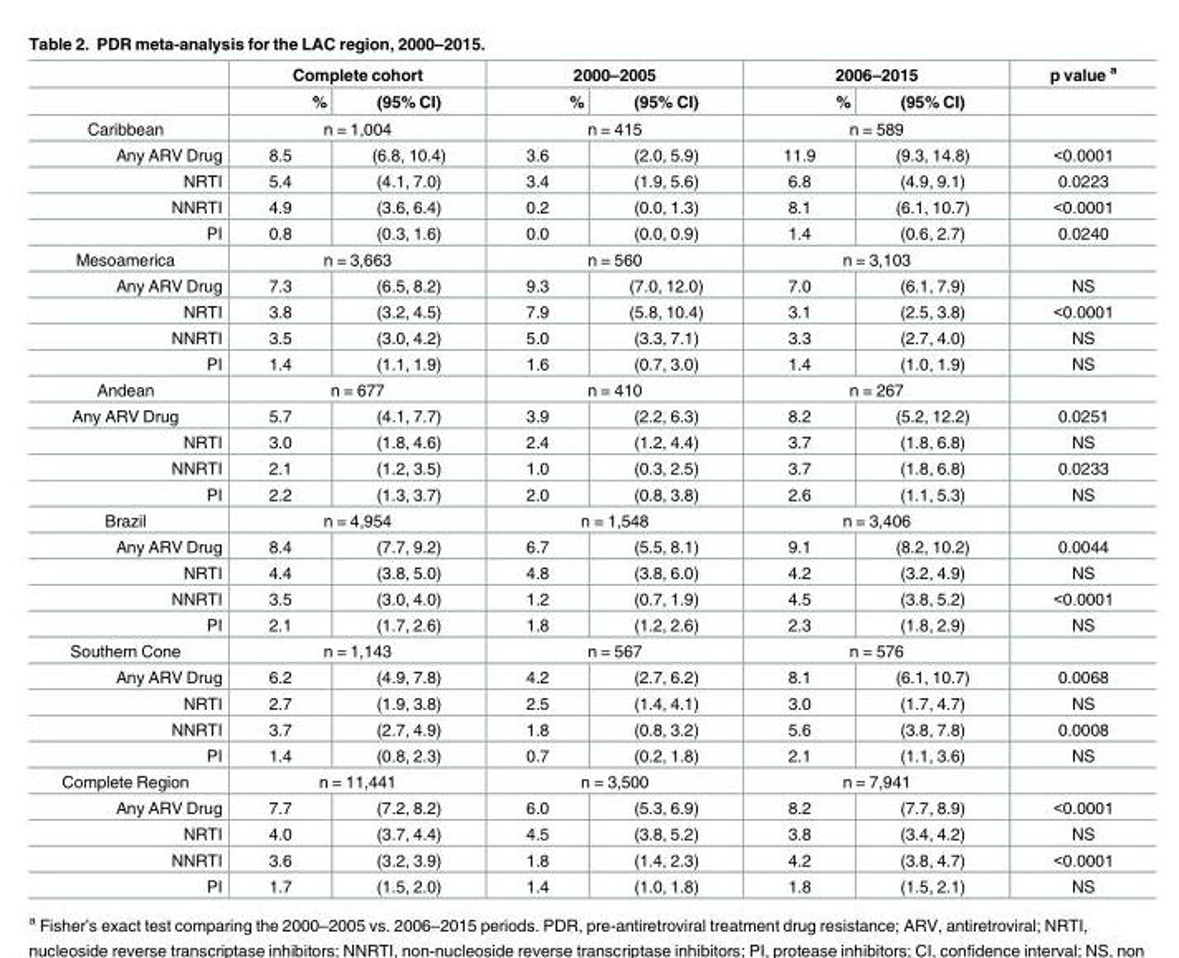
<table><thead><tr><td rowspan="2"></td><td colspan="2">Complete cohort</td><td colspan="2">2000–2005</td><td colspan="2">2006–2015</td><td rowspan="2">p value <sup>a</sup></td></tr><tr><td>%</td><td>(95% CI)</td><td>%</td><td>(95% CI)</td><td>%</td><td>(95% CI)</td></tr></thead><tbody><tr><td>Caribbean</td><td colspan="2">n = 1,004</td><td colspan="2">n = 415</td><td colspan="2">n = 589</td><td></td></tr><tr><td>Any ARV Drug</td><td>8.5</td><td>(6.8, 10.4)</td><td>3.6</td><td>(2.0, 5.9)</td><td>11.9</td><td>(9.3, 14.8)</td><td>&lt;0.0001</td></tr><tr><td>NRTI</td><td>5.4</td><td>(4.1, 7.0)</td><td>3.4</td><td>(1.9, 5.6)</td><td>6.8</td><td>(4.9, 9.1)</td><td>0.0223</td></tr><tr><td>NNRTI</td><td>4.9</td><td>(3.6, 6.4)</td><td>0.2</td><td>(0.0, 1.3)</td><td>8.1</td><td>(6.1, 10.7)</td><td>&lt;0.0001</td></tr><tr><td>PI</td><td>0.8</td><td>(0.3, 1.6)</td><td>0.0</td><td>(0.0, 0.9)</td><td>1.4</td><td>(0.6, 2.7)</td><td>0.0240</td></tr><tr><td>Mesoamerica</td><td colspan="2">n = 3,663</td><td colspan="2">n = 560</td><td colspan="2">n = 3,103</td><td></td></tr><tr><td>Any ARV Drug</td><td>7.3</td><td>(6.5, 8.2)</td><td>9.3</td><td>(7.0, 12.0)</td><td>7.0</td><td>(6.1, 7.9)</td><td>NS</td></tr><tr><td>NRTI</td><td>3.8</td><td>(3.2, 4.5)</td><td>7.9</td><td>(5.8, 10.4)</td><td>3.1</td><td>(2.5, 3.8)</td><td>&lt;0.0001</td></tr><tr><td>NNRTI</td><td>3.5</td><td>(3.0, 4.2)</td><td>5.0</td><td>(3.3, 7.1)</td><td>3.3</td><td>(2.7, 4.0)</td><td>NS</td></tr><tr><td>PI</td><td>1.4</td><td>(1.1, 1.9)</td><td>1.6</td><td>(0.7, 3.0)</td><td>1.4</td><td>(1.0, 1.9)</td><td>NS</td></tr><tr><td>Andean</td><td colspan="2">n = 677</td><td colspan="2">n = 410</td><td colspan="2">n = 267</td><td></td></tr><tr><td>Any ARV Drug</td><td>5.7</td><td>(4.1, 7.7)</td><td>3.9</td><td>(2.2, 6.3)</td><td>8.2</td><td>(5.2, 12.2)</td><td>0.0251</td></tr><tr><td>NRTI</td><td>3.0</td><td>(1.8, 4.6)</td><td>2.4</td><td>(1.2, 4.4)</td><td>3.7</td><td>(1.8, 6.8)</td><td>NS</td></tr><tr><td>NNRTI</td><td>2.1</td><td>(1.2, 3.5)</td><td>1.0</td><td>(0.3, 2.5)</td><td>3.7</td><td>(1.8, 6.8)</td><td>0.0233</td></tr><tr><td>PI</td><td>2.2</td><td>(1.3, 3.7)</td><td>2.0</td><td>(0.8, 3.8)</td><td>2.6</td><td>(1.1, 5.3)</td><td>NS</td></tr><tr><td>Brazil</td><td colspan="2">n = 4,954</td><td colspan="2">n = 1,548</td><td colspan="2">n = 3,406</td><td></td></tr><tr><td>Any ARV Drug</td><td>8.4</td><td>(7.7, 9.2)</td><td>6.7</td><td>(5.5, 8.1)</td><td>9.1</td><td>(8.2, 10.2)</td><td>0.0044</td></tr><tr><td>NRTI</td><td>4.4</td><td>(3.8, 5.0)</td><td>4.8</td><td>(3.8, 6.0)</td><td>4.2</td><td>(3.2, 4.9)</td><td>NS</td></tr><tr><td>NNRTI</td><td>3.5</td><td>(3.0, 4.0)</td><td>1.2</td><td>(0.7, 1.9)</td><td>4.5</td><td>(3.8, 5.2)</td><td>&lt;0.0001</td></tr><tr><td>PI</td><td>2.1</td><td>(1.7, 2.6)</td><td>1.8</td><td>(1.2, 2.6)</td><td>2.3</td><td>(1.8, 2.9)</td><td>NS</td></tr><tr><td>Southern Cone</td><td colspan="2">n = 1,143</td><td colspan="2">n = 567</td><td colspan="2">n = 576</td><td></td></tr><tr><td>Any ARV Drug</td><td>6.2</td><td>(4.9, 7.8)</td><td>4.2</td><td>(2.7, 6.2)</td><td>8.1</td><td>(6.1, 10.7)</td><td>0.0068</td></tr><tr><td>NRTI</td><td>2.7</td><td>(1.9, 3.8)</td><td>2.5</td><td>(1.4, 4.1)</td><td>3.0</td><td>(1.7, 4.7)</td><td>NS</td></tr><tr><td>NNRTI</td><td>3.7</td><td>(2.7, 4.9)</td><td>1.8</td><td>(0.8, 3.2)</td><td>5.6</td><td>(3.8, 7.8)</td><td>0.0008</td></tr><tr><td>PI</td><td>1.4</td><td>(0.8, 2.3)</td><td>0.7</td><td>(0.2, 1.8)</td><td>2.1</td><td>(1.1, 3.6)</td><td>NS</td></tr><tr><td>Complete Region</td><td colspan="2">n = 11,441</td><td colspan="2">n = 3,500</td><td colspan="2">n = 7,941</td><td></td></tr><tr><td>Any ARV Drug</td><td>7.7</td><td>(7.2, 8.2)</td><td>6.0</td><td>(5.3, 6.9)</td><td>8.2</td><td>(7.7, 8.9)</td><td>&lt;0.0001</td></tr><tr><td>NRTI</td><td>4.0</td><td>(3.7, 4.4)</td><td>4.5</td><td>(3.8, 5.2)</td><td>3.8</td><td>(3.4, 4.2)</td><td>NS</td></tr><tr><td>NNRTI</td><td>3.6</td><td>(3.2, 3.9)</td><td>1.8</td><td>(1.4, 2.3)</td><td>4.2</td><td>(3.8, 4.7)</td><td>&lt;0.0001</td></tr><tr><td>PI</td><td>1.7</td><td>(1.5, 2.0)</td><td>1.4</td><td>(1.0, 1.8)</td><td>1.8</td><td>(1.5, 2.1)</td><td>NS</td></tr></tbody></table>